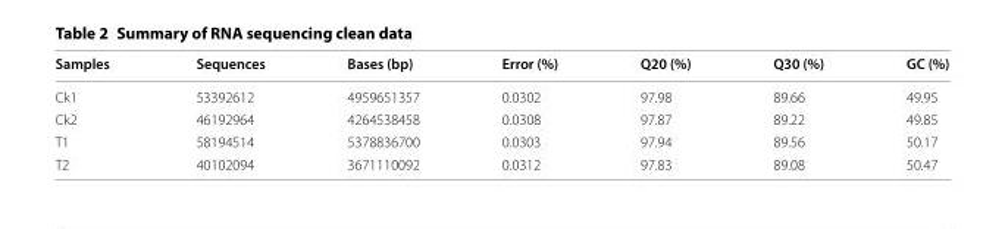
<table><thead><tr><td>Samples</td><td>Sequences</td><td>Bases (bp)</td><td>Error (%)</td><td>Q20 (%)</td><td>Q30 (%)</td><td>GC (%)</td></tr></thead><tbody><tr><td>Ck1</td><td>53392612</td><td>4959651357</td><td>0.0302</td><td>97.98</td><td>89.66</td><td>49.95</td></tr><tr><td>Ck2</td><td>46192964</td><td>4264538458</td><td>0.0308</td><td>97.87</td><td>89.22</td><td>49.85</td></tr><tr><td>T1</td><td>58194514</td><td>5378836700</td><td>0.0303</td><td>97.94</td><td>89.56</td><td>50.17</td></tr><tr><td>T2</td><td>40102094</td><td>3671110092</td><td>0.0312</td><td>97.83</td><td>89.08</td><td>50.47</td></tr></tbody></table>